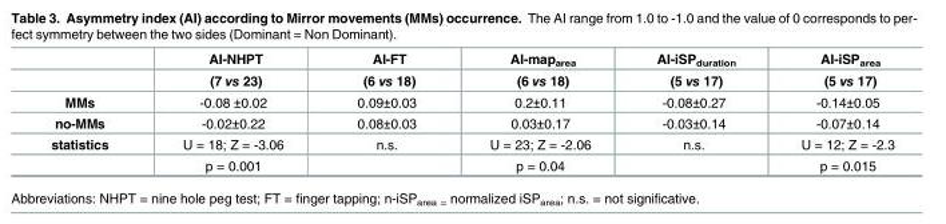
<table><thead><tr><td rowspan="2"></td><td rowspan="2">AI-NHPT (7 vs 23)</td><td rowspan="2">AI-FT (6 vs 18)</td><td rowspan="2">AI-map<sub>area</sub> (6 vs 18)</td><td rowspan="2">AI-iSP<sub>duration</sub> (5 vs 17)</td><td rowspan="2">AI-iSP<sub>area</sub> (5 vs 17)</td></tr><tr></tr></thead><tbody><tr><td>MMs</td><td>-0.08 ±0.02</td><td>0.09±0.03</td><td>0.2±0.11</td><td>-0.08±0.27</td><td>-0.14±0.05</td></tr><tr><td>no-MMs</td><td>-0.02±0.22</td><td>0.08±0.03</td><td>0.03±0.17</td><td>-0.03±0.14</td><td>-0.07±0.14</td></tr><tr><td rowspan="2">statistics</td><td>U = 18; Z = -3.06</td><td>n.s.</td><td>U = 23; Z = -2.06</td><td>n.s.</td><td>U = 12; Z = -2.3</td></tr><tr><td>p = 0.001</td><td></td><td>p = 0.04</td><td></td><td>p = 0.015</td></tr></tbody></table>